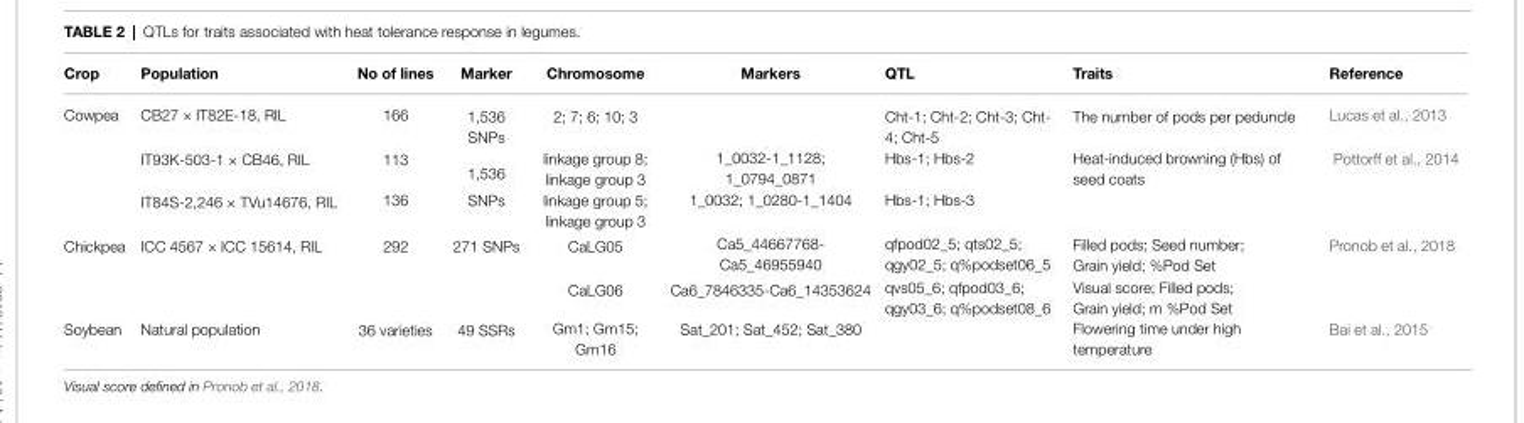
<table><thead><tr><td>Crop</td><td>Population</td><td>No of lines</td><td>Marker</td><td>Chromosome</td><td>Markers</td><td>QTL</td><td>Traits</td><td>Reference</td></tr></thead><tbody><tr><td rowspan="3">Cowpea</td><td>CB27 × IT82E-18, RIL</td><td>166</td><td>1,536 SNPs</td><td>2; 7; 6; 10; 3</td><td></td><td>Cht-1; Cht-2; Cht-3; Cht- 4; Cht-5</td><td>The number of pods per peduncle</td><td>Lucas et al., 2013</td></tr><tr><td>IT93K-503-1 × CB46, RIL</td><td>113</td><td rowspan="2">1,536 SNPs</td><td>linkage group 8; linkage group 3</td><td>1_0032-1_1128; 1_0794_0871</td><td>Hbs-1; Hbs-2</td><td rowspan="2">Heat-induced browning (Hbs) of seed coats</td><td rowspan="2">Pottorff et al., 2014</td></tr><tr><td>IT84S-2,246 × TVu14676, RIL</td><td>136</td><td>linkage group 5; linkage group 3</td><td>1_0032; 1_0280-1_1404</td><td>Hbs-1; Hbs-3</td></tr><tr><td rowspan="2">Chickpea</td><td>ICC 4567 × ICC 15614, RIL</td><td>292</td><td>271 SNPs</td><td>CaLG05</td><td>Ca5_44667768- Ca5_46955940</td><td>qfpod02_5; qts02_5; qgy02_5; q%podset06_5</td><td>Filled pods; Seed number; Grain yield; %Pod Set</td><td>Pronob et al., 2018</td></tr><tr><td></td><td></td><td></td><td>CaLG06</td><td>Ca6_7846335-Ca6_14353624</td><td>qvs05_6; qfpod03_6; qgy03_6; q%podset08_6</td><td>Visual score; Filled pods; Grain yield; m %Pod Set</td><td></td></tr><tr><td>Soybean</td><td>Natural population</td><td>36 varieties</td><td>49 SSRs</td><td>Gm1; Gm15; Gm16</td><td>Sat_201; Sat_452; Sat_380</td><td></td><td>Flowering time under high temperature</td><td>Bai et al., 2015</td></tr></tbody></table>